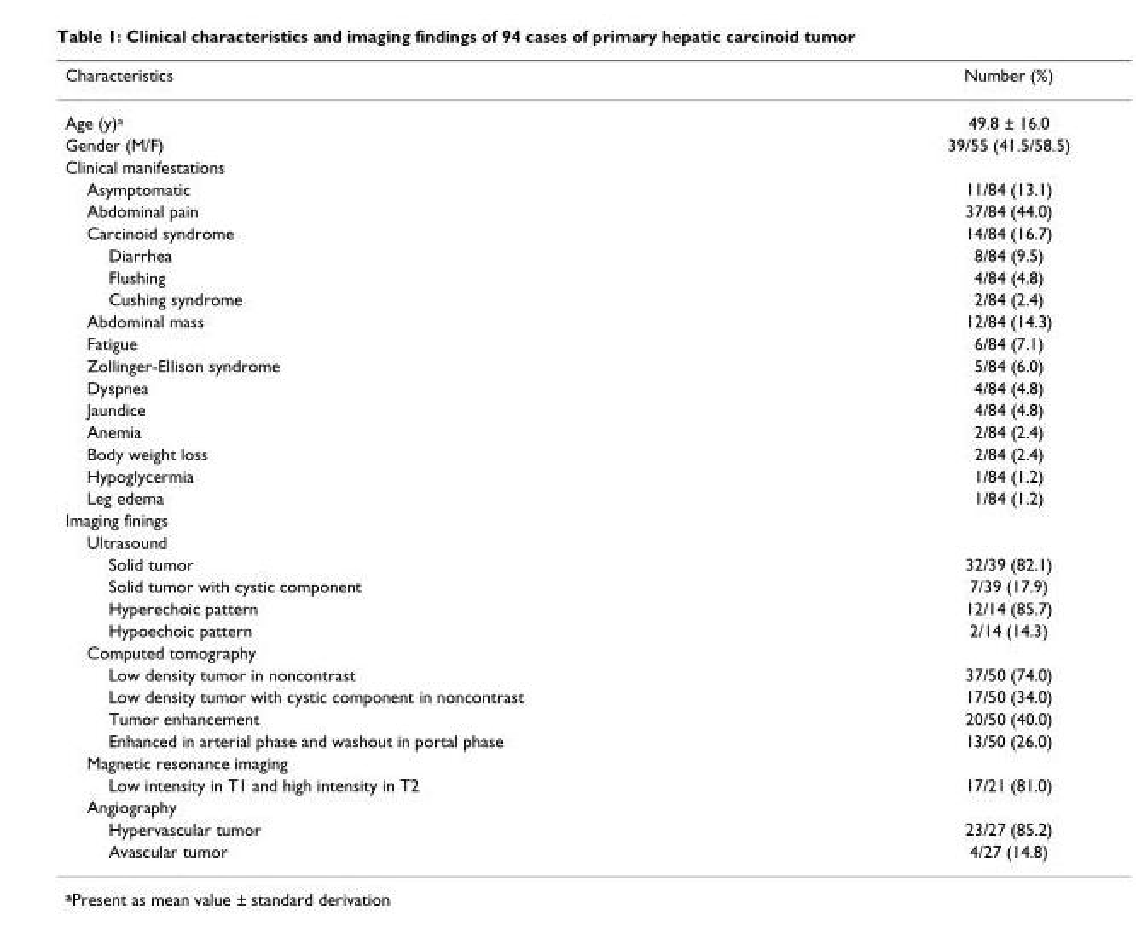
<table><thead><tr><td>Characteristics</td><td>Number (%)</td></tr></thead><tbody><tr><td>Age (y)<sup>a</sup></td><td>49.8 ± 16.0</td></tr><tr><td>Gender (M/F)</td><td>39/55 (41.5/58.5)</td></tr><tr><td colspan="2">Clinical manifestations</td></tr><tr><td>Asymptomatic</td><td>11/84 (13.1)</td></tr><tr><td>Abdominal pain</td><td>37/84 (44.0)</td></tr><tr><td>Carcinoid syndrome</td><td>14/84 (16.7)</td></tr><tr><td>Diarrhea</td><td>8/84 (9.5)</td></tr><tr><td>Flushing</td><td>4/84 (4.8)</td></tr><tr><td>Cushing syndrome</td><td>2/84 (2.4)</td></tr><tr><td>Abdominal mass</td><td>12/84 (14.3)</td></tr><tr><td>Fatigue</td><td>6/84 (7.1)</td></tr><tr><td>Zollinger-Ellison syndrome</td><td>5/84 (6.0)</td></tr><tr><td>Dyspnea</td><td>4/84 (4.8)</td></tr><tr><td>Jaundice</td><td>4/84 (4.8)</td></tr><tr><td>Anemia</td><td>2/84 (2.4)</td></tr><tr><td>Body weight loss</td><td>2/84 (2.4)</td></tr><tr><td>Hypoglycermia</td><td>1/84 (1.2)</td></tr><tr><td>Leg edema</td><td>1/84 (1.2)</td></tr><tr><td colspan="2">Imaging finings</td></tr><tr><td colspan="2">Ultrasound</td></tr><tr><td>Solid tumor</td><td>32/39 (82.1)</td></tr><tr><td>Solid tumor with cystic component</td><td>7/39 (17.9)</td></tr><tr><td>Hyperechoic pattern</td><td>12/14 (85.7)</td></tr><tr><td>Hypoechoic pattern</td><td>2/14 (14.3)</td></tr><tr><td colspan="2">Computed tomography</td></tr><tr><td>Low density tumor in noncontrast</td><td>37/50 (74.0)</td></tr><tr><td>Low density tumor with cystic component in noncontrast</td><td>17/50 (34.0)</td></tr><tr><td>Tumor enhancement</td><td>20/50 (40.0)</td></tr><tr><td>Enhanced in arterial phase and washout in portal phase</td><td>13/50 (26.0)</td></tr><tr><td colspan="2">Magnetic resonance imaging</td></tr><tr><td>Low intensity in T1 and high intensity in T2</td><td>17/21 (81.0)</td></tr><tr><td colspan="2">Angiography</td></tr><tr><td>Hypervascular tumor</td><td>23/27 (85.2)</td></tr><tr><td>Avascular tumor</td><td>4/27 (14.8)</td></tr></tbody></table>